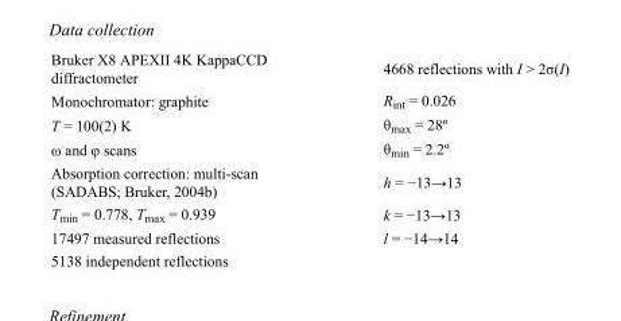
<table><tbody><tr><td>Bruker X8 APEXII 4K KappaCCD diffractometer</td><td>4668 reflections with I &gt; 2σ(I)</td></tr><tr><td>Monochromator: graphite</td><td>R<sub>int</sub> = 0.026</td></tr><tr><td>T = 100(2) K</td><td>θ<sub>max</sub> = 28º</td></tr><tr><td>ω and φ scans</td><td>θ<sub>min</sub> = 2.2º</td></tr><tr><td>Absorption correction: multi-scan (SADABS; Bruker, 2004b)</td><td>h = −13→13</td></tr><tr><td>T<sub>min</sub> = 0.778, T<sub>max</sub> = 0.939</td><td>k = −13→13</td></tr><tr><td>17497 measured reflections</td><td>l = −14→14</td></tr><tr><td>5138 independent reflections</td><td></td></tr></tbody></table>